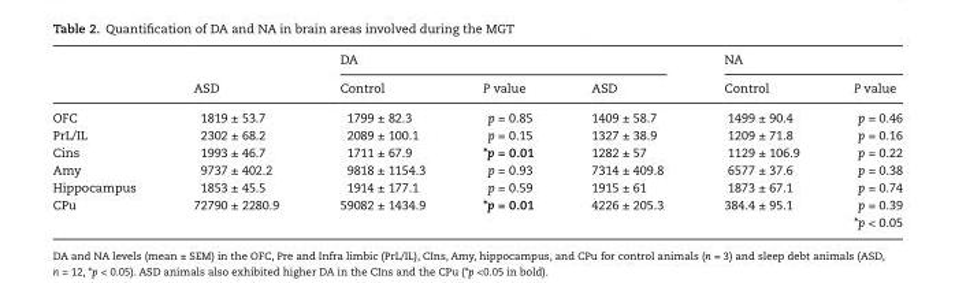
<table><thead><tr><td rowspan="2"></td><td rowspan="2">ASD</td><td colspan="3">DA</td><td colspan="2">NA</td></tr><tr><td>Control</td><td>P value</td><td>ASD</td><td>Control</td><td>P value</td></tr></thead><tbody><tr><td>OFC</td><td>1819 ± 53.7</td><td>1799 ± 82.3</td><td>p = 0.85</td><td>1409 ± 58.7</td><td>1499 ± 90.4</td><td>p = 0.46</td></tr><tr><td>PrL/IL</td><td>2302 ± 68.2</td><td>2089 ± 100.1</td><td>p = 0.15</td><td>1327 ± 38.9</td><td>1209 ± 71.8</td><td>p = 0.16</td></tr><tr><td>Cins</td><td>1993 ± 46.7</td><td>1711 ± 67.9</td><td>*p = 0.01</td><td>1282 ± 57</td><td>1129 ± 106.9</td><td>p = 0.22</td></tr><tr><td>Amy</td><td>9737 ± 402.2</td><td>9818 ± 1154.3</td><td>p = 0.93</td><td>7314 ± 409.8</td><td>6577 ± 37.6</td><td>p = 0.38</td></tr><tr><td>Hippocampus</td><td>1853 ± 45.5</td><td>1914 ± 177.1</td><td>p = 0.59</td><td>1915 ± 61</td><td>1873 ± 67.1</td><td>p = 0.74</td></tr><tr><td rowspan="2">CPu</td><td>72790 ± 2280.9</td><td>59082 ± 1434.9</td><td>*p = 0.01</td><td>4226 ± 205.3</td><td>384.4 ± 95.1</td><td>p = 0.39</td></tr><tr><td></td><td></td><td></td><td></td><td></td><td>*p &lt; 0.05</td></tr></tbody></table>